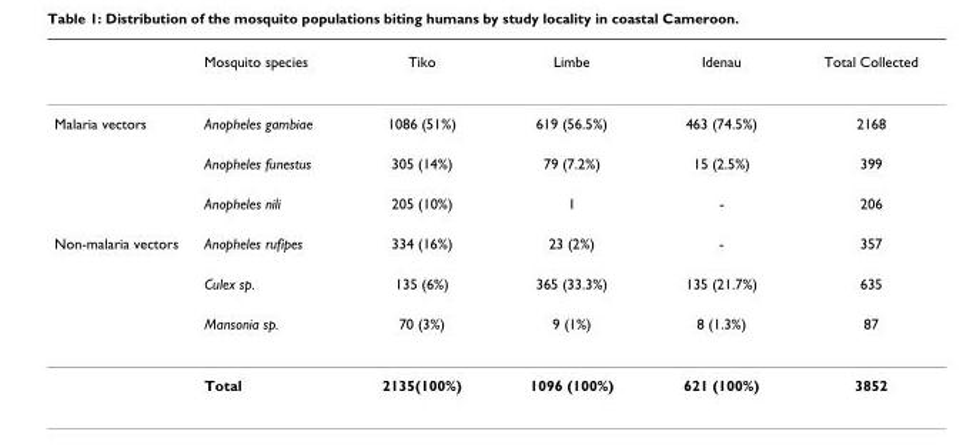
<table><thead><tr><td></td><td>Mosquito species</td><td>Tiko</td><td>Limbe</td><td>Idenau</td><td>Total Collected</td></tr></thead><tbody><tr><td rowspan="3">Malaria vectors</td><td>Anopheles gambiae</td><td>1086 (51%)</td><td>619 (56.5%)</td><td>463 (74.5%)</td><td>2168</td></tr><tr><td>Anopheles funestus</td><td>305 (14%)</td><td>79 (7.2%)</td><td>15 (2.5%)</td><td>399</td></tr><tr><td>Anopheles nili</td><td>205 (10%)</td><td>1</td><td>-</td><td>206</td></tr><tr><td rowspan="4">Non-malaria vectors</td><td>Anopheles rufipes</td><td>334 (16%)</td><td>23 (2%)</td><td>-</td><td>357</td></tr><tr><td>Culex sp.</td><td>135 (6%)</td><td>365 (33.3%)</td><td>135 (21.7%)</td><td>635</td></tr><tr><td>Mansonia sp.</td><td>70 (3%)</td><td>9 (1%)</td><td>8 (1.3%)</td><td>87</td></tr><tr><td>Total</td><td>2135(100%)</td><td>1096 (100%)</td><td>621 (100%)</td><td>3852</td></tr></tbody></table>